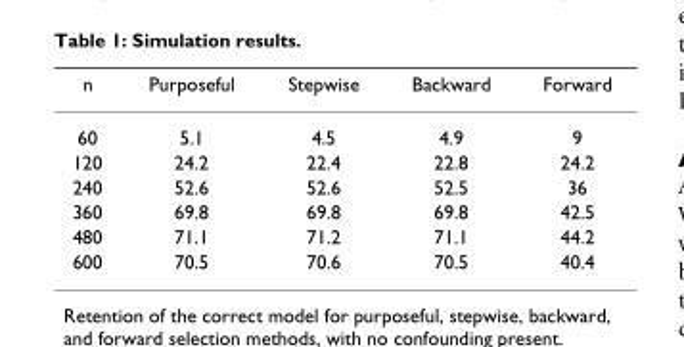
<table><thead><tr><td>n</td><td>Purposeful</td><td>Stepwise</td><td>Backward</td><td>Forward</td></tr></thead><tbody><tr><td>60</td><td>5.1</td><td>4.5</td><td>4.9</td><td>9</td></tr><tr><td>120</td><td>24.2</td><td>22.4</td><td>22.8</td><td>24.2</td></tr><tr><td>240</td><td>52.6</td><td>52.6</td><td>52.5</td><td>36</td></tr><tr><td>360</td><td>69.8</td><td>69.8</td><td>69.8</td><td>42.5</td></tr><tr><td>480</td><td>71.1</td><td>71.2</td><td>71.1</td><td>44.2</td></tr><tr><td>600</td><td>70.5</td><td>70.6</td><td>70.5</td><td>40.4</td></tr></tbody></table>